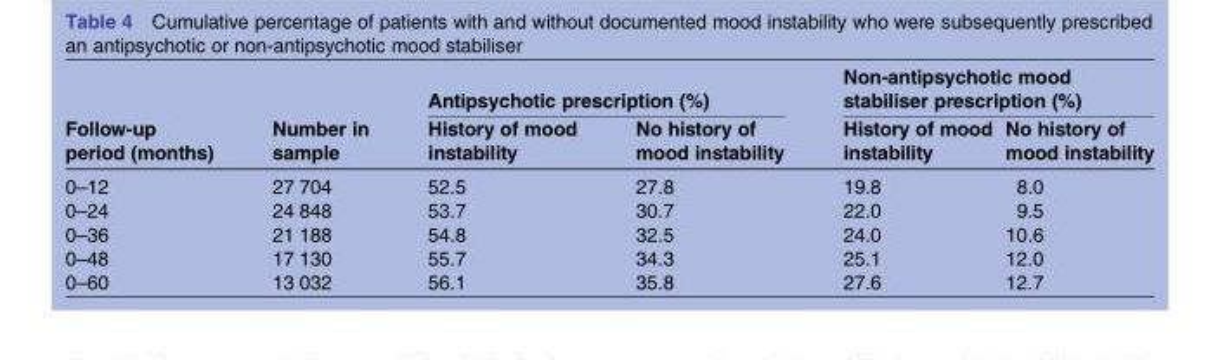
<table><thead><tr><td rowspan="2">Follow-up period (months)</td><td rowspan="2">Number in sample</td><td colspan="2">Antipsychotic prescription (%)</td><td colspan="2">Non-antipsychotic mood stabiliser prescription (%)</td></tr><tr><td>History of mood instability</td><td>No history of mood instability</td><td>History of mood instability</td><td>No history of mood instability</td></tr></thead><tbody><tr><td>0–12</td><td>27 704</td><td>52.5</td><td>27.8</td><td>19.8</td><td>8.0</td></tr><tr><td>0–24</td><td>24 848</td><td>53.7</td><td>30.7</td><td>22.0</td><td>9.5</td></tr><tr><td>0–36</td><td>21 188</td><td>54.8</td><td>32.5</td><td>24.0</td><td>10.6</td></tr><tr><td>0–48</td><td>17 130</td><td>55.7</td><td>34.3</td><td>25.1</td><td>12.0</td></tr><tr><td>0–60</td><td>13 032</td><td>56.1</td><td>35.8</td><td>27.6</td><td>12.7</td></tr></tbody></table>